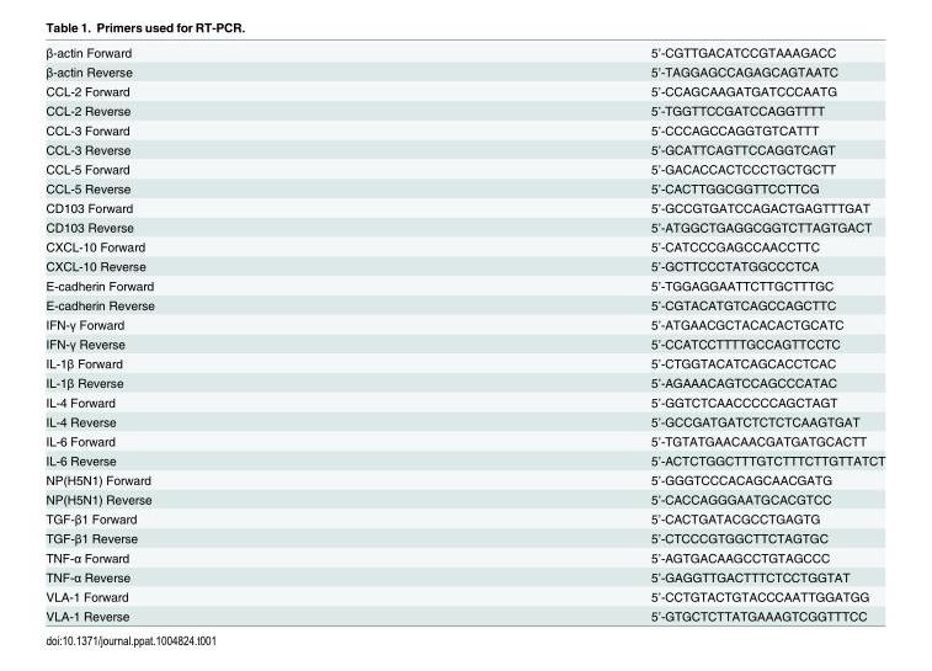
<table><tbody><tr><td>β-actin Forward</td><td>5’-CGTTGACATCCGTAAAGACC</td></tr><tr><td>β-actin Reverse</td><td>5’-TAGGAGCCAGAGCAGTAATC</td></tr><tr><td>CCL-2 Forward</td><td>5’-CCAGCAAGATGATCCCAATG</td></tr><tr><td>CCL-2 Reverse</td><td>5’-TGGTTCCGATCCAGGTTTT</td></tr><tr><td>CCL-3 Forward</td><td>5’-CCCAGCCAGGTGTCATTT</td></tr><tr><td>CCL-3 Reverse</td><td>5’-GCATTCAGTTCCAGGTCAGT</td></tr><tr><td>CCL-5 Forward</td><td>5’-GACACCACTCCCTGCTGCTT</td></tr><tr><td>CCL-5 Reverse</td><td>5’-CACTTGGCGGTTCCTTCG</td></tr><tr><td>CD103 Forward</td><td>5’-GCCGTGATCCAGACTGAGTTTGAT</td></tr><tr><td>CD103 Reverse</td><td>5’-ATGGCTGAGGCGGTCTTAGTGACT</td></tr><tr><td>CXCL-10 Forward</td><td>5’-CATCCCGAGCCAACCTTC</td></tr><tr><td>CXCL-10 Reverse</td><td>5’-GCTTCCCTATGGCCCTCA</td></tr><tr><td>E-cadherin Forward</td><td>5’-TGGAGGAATTCTTGCTTTGC</td></tr><tr><td>E-cadherin Reverse</td><td>5’-CGTACATGTCAGCCAGCTTC</td></tr><tr><td>IFN-γ Forward</td><td>5’-ATGAACGCTACACACTGCATC</td></tr><tr><td>IFN-γ Reverse</td><td>5’-CCATCCTTTTGCCAGTTCCTC</td></tr><tr><td>IL-1β Forward</td><td>5’-CTGGTACATCAGCACCTCAC</td></tr><tr><td>IL-1β Reverse</td><td>5’-AGAAACAGTCCAGCCCATAC</td></tr><tr><td>IL-4 Forward</td><td>5’-GGTCTCAACCCCCAGCTAGT</td></tr><tr><td>IL-4 Reverse</td><td>5’-GCCGATGATCTCTCTCAAGTGAT</td></tr><tr><td>IL-6 Forward</td><td>5’-TGTATGAACAACGATGATGCACTT</td></tr><tr><td>IL-6 Reverse</td><td>5’-ACTCTGGCTTTGTCTTTCTTGTTATCT</td></tr><tr><td>NP(H5N1) Forward</td><td>5’-GGGTCCCACAGCAACGATG</td></tr><tr><td>NP(H5N1) Reverse</td><td>5’-CACCAGGGAATGCACGTCC</td></tr><tr><td>TGF-β1 Forward</td><td>5’-CACTGATACGCCTGAGTG</td></tr><tr><td>TGF-β1 Reverse</td><td>5’-CTCCCGTGGCTTCTAGTGC</td></tr><tr><td>TNF-α Forward</td><td>5’-AGTGACAAGCCTGTAGCCC</td></tr><tr><td>TNF-α Reverse</td><td>5’-GAGGTTGACTTTCTCCTGGTAT</td></tr><tr><td>VLA-1 Forward</td><td>5’-CCTGTACTGTACCCAATTGGATGG</td></tr><tr><td>VLA-1 Reverse</td><td>5’-GTGCTCTTATGAAAGTCGGTTTCC</td></tr></tbody></table>